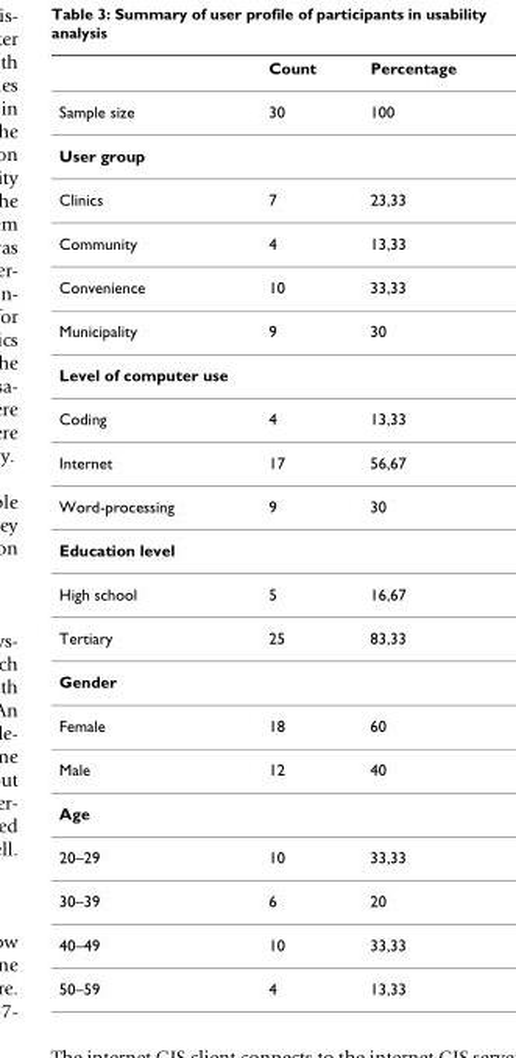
<table><thead><tr><td></td><td>Count</td><td>Percentage</td></tr></thead><tbody><tr><td>Sample size</td><td>30</td><td>100</td></tr><tr><td colspan="3">User group</td></tr><tr><td>Clinics</td><td>7</td><td>23,33</td></tr><tr><td>Community</td><td>4</td><td>13,33</td></tr><tr><td>Convenience</td><td>10</td><td>33,33</td></tr><tr><td>Municipality</td><td>9</td><td>30</td></tr><tr><td colspan="3">Level of computer use</td></tr><tr><td>Coding</td><td>4</td><td>13,33</td></tr><tr><td>Internet</td><td>17</td><td>56,67</td></tr><tr><td>Word-processing</td><td>9</td><td>30</td></tr><tr><td colspan="3">Education level</td></tr><tr><td>High school</td><td>5</td><td>16,67</td></tr><tr><td>Tertiary</td><td>25</td><td>83,33</td></tr><tr><td colspan="3">Gender</td></tr><tr><td>Female</td><td>18</td><td>60</td></tr><tr><td>Male</td><td>12</td><td>40</td></tr><tr><td colspan="3">Age</td></tr><tr><td>20–29</td><td>10</td><td>33,33</td></tr><tr><td>30–39</td><td>6</td><td>20</td></tr><tr><td>40–49</td><td>10</td><td>33,33</td></tr><tr><td>50–59</td><td>4</td><td>13,33</td></tr></tbody></table>